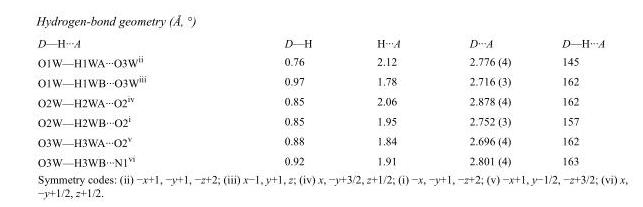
<table><tbody><tr><td>D—H···A</td><td>D—H</td><td>H···A</td><td>D···A</td><td>D—H···A</td></tr><tr><td>O1W—H1WA···O3W<sup>ii</sup></td><td>0.76</td><td>2.12</td><td>2.776 (4)</td><td>145</td></tr><tr><td>O1W—H1WB···O3W<sup>iii</sup></td><td>0.97</td><td>1.78</td><td>2.716 (3)</td><td>162</td></tr><tr><td>O2W—H2WA···O2<sup>iv</sup></td><td>0.85</td><td>2.06</td><td>2.878 (4)</td><td>162</td></tr><tr><td>O2W—H2WB···O2<sup>i</sup></td><td>0.85</td><td>1.95</td><td>2.752 (3)</td><td>157</td></tr><tr><td>O3W—H3WA···O2<sup>v</sup></td><td>0.88</td><td>1.84</td><td>2.696 (4)</td><td>162</td></tr><tr><td>O3W—H3WB···N1<sup>vi</sup></td><td>0.92</td><td>1.91</td><td>2.801 (4)</td><td>163</td></tr></tbody></table>